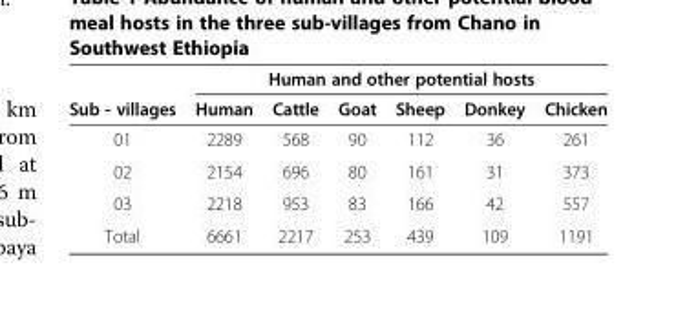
<table><thead><tr><td rowspan="2">Sub - villages</td><td colspan="6">Human and other potential hosts</td></tr><tr><td>Human</td><td>Cattle</td><td>Goat</td><td>Sheep</td><td>Donkey</td><td>Chicken</td></tr></thead><tbody><tr><td>01</td><td>2289</td><td>568</td><td>90</td><td>112</td><td>36</td><td>261</td></tr><tr><td>02</td><td>2154</td><td>696</td><td>80</td><td>161</td><td>31</td><td>373</td></tr><tr><td>03</td><td>2218</td><td>953</td><td>83</td><td>166</td><td>42</td><td>557</td></tr><tr><td>Total</td><td>6661</td><td>2217</td><td>253</td><td>439</td><td>109</td><td>1191</td></tr></tbody></table>